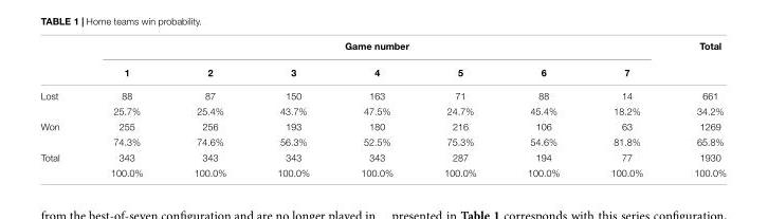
<table><thead><tr><td rowspan="2"></td><td colspan="7">Game number</td><td rowspan="2">Total</td></tr><tr><td>1</td><td>2</td><td>3</td><td>4</td><td>5</td><td>6</td><td>7</td></tr></thead><tbody><tr><td rowspan="2">Lost</td><td>88</td><td>87</td><td>150</td><td>163</td><td>71</td><td>88</td><td>14</td><td>661</td></tr><tr><td>25.7%</td><td>25.4%</td><td>43.7%</td><td>47.5%</td><td>24.7%</td><td>45.4%</td><td>18.2%</td><td>34.2%</td></tr><tr><td rowspan="2">Won</td><td>255</td><td>256</td><td>193</td><td>180</td><td>216</td><td>106</td><td>63</td><td>1269</td></tr><tr><td>74.3%</td><td>74.6%</td><td>56.3%</td><td>52.5%</td><td>75.3%</td><td>54.6%</td><td>81.8%</td><td>65.8%</td></tr><tr><td rowspan="2">Total</td><td>343</td><td>343</td><td>343</td><td>343</td><td>287</td><td>194</td><td>77</td><td>1930</td></tr><tr><td>100.0%</td><td>100.0%</td><td>100.0%</td><td>100.0%</td><td>100.0%</td><td>100.0%</td><td>100.0%</td><td>100.0%</td></tr></tbody></table>